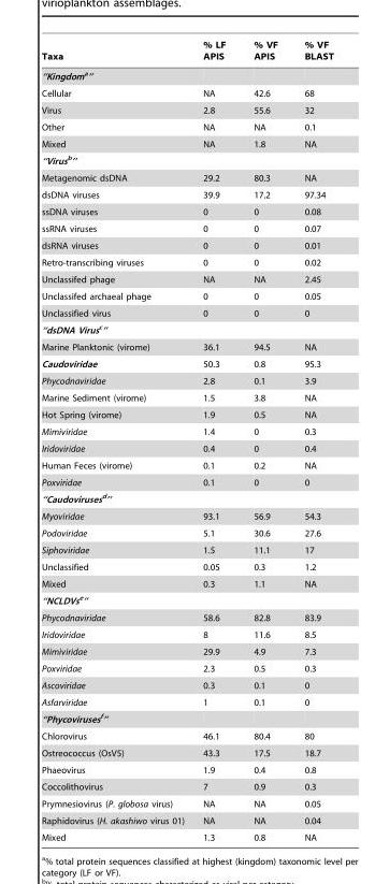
<table><thead><tr><td>Taxa</td><td>% LF APIS</td><td>% VF APIS</td><td>% VF BLAST</td></tr></thead><tbody><tr><td colspan="4">‘‘Kingdoma’’</td></tr><tr><td>Cellular</td><td>NA</td><td>42.6</td><td>68</td></tr><tr><td>Virus</td><td>2.8</td><td>55.6</td><td>32</td></tr><tr><td>Other</td><td>NA</td><td>NA</td><td>0.1</td></tr><tr><td>Mixed</td><td>NA</td><td>1.8</td><td>NA</td></tr><tr><td colspan="4">‘‘Virusb’’</td></tr><tr><td>Metagenomic dsDNA</td><td>29.2</td><td>80.3</td><td>NA</td></tr><tr><td>dsDNA viruses</td><td>39.9</td><td>17.2</td><td>97.34</td></tr><tr><td>ssDNA viruses</td><td>0</td><td>0</td><td>0.08</td></tr><tr><td>ssRNA viruses</td><td>0</td><td>0</td><td>0.07</td></tr><tr><td>dsRNA viruses</td><td>0</td><td>0</td><td>0.01</td></tr><tr><td>Retro-transcribing viruses</td><td>0</td><td>0</td><td>0.02</td></tr><tr><td>Unclassifed phage</td><td>NA</td><td>NA</td><td>2.45</td></tr><tr><td>Unclassifed archaeal phage</td><td>0</td><td>0</td><td>0.05</td></tr><tr><td>Unclassified virus</td><td>0</td><td>0</td><td>0</td></tr><tr><td colspan="4">‘‘dsDNA Virusc’’</td></tr><tr><td>Marine Planktonic (virome)</td><td>36.1</td><td>94.5</td><td>NA</td></tr><tr><td>Caudoviridae</td><td>50.3</td><td>0.8</td><td>95.3</td></tr><tr><td>Phycodnaviridae</td><td>2.8</td><td>0.1</td><td>3.9</td></tr><tr><td>Marine Sediment (virome)</td><td>1.5</td><td>3.8</td><td>NA</td></tr><tr><td>Hot Spring (virome)</td><td>1.9</td><td>0.5</td><td>NA</td></tr><tr><td>Mimiviridae</td><td>1.4</td><td>0</td><td>0.3</td></tr><tr><td>Iridoviridae</td><td>0.4</td><td>0</td><td>0.4</td></tr><tr><td>Human Feces (virome)</td><td>0.1</td><td>0.2</td><td>NA</td></tr><tr><td>Poxviridae</td><td>0.1</td><td>0</td><td>0</td></tr><tr><td colspan="4">‘‘Caudovirusesd’’</td></tr><tr><td>Myoviridae</td><td>93.1</td><td>56.9</td><td>54.3</td></tr><tr><td>Podoviridae</td><td>5.1</td><td>30.6</td><td>27.6</td></tr><tr><td>Siphoviridae</td><td>1.5</td><td>11.1</td><td>17</td></tr><tr><td>Unclassified</td><td>0.05</td><td>0.3</td><td>1.2</td></tr><tr><td>Mixed</td><td>0.3</td><td>1.1</td><td>NA</td></tr><tr><td colspan="4">‘‘NCLDVse’’</td></tr><tr><td>Phycodnaviridae</td><td>58.6</td><td>82.8</td><td>83.9</td></tr><tr><td>Iridoviridae</td><td>8</td><td>11.6</td><td>8.5</td></tr><tr><td>Mimiviridae</td><td>29.9</td><td>4.9</td><td>7.3</td></tr><tr><td>Poxviridae</td><td>2.3</td><td>0.5</td><td>0.3</td></tr><tr><td>Ascoviridae</td><td>0.3</td><td>0.1</td><td>0</td></tr><tr><td>Asfarviridae</td><td>1</td><td>0.1</td><td>0</td></tr><tr><td colspan="4">‘‘Phycovirusesf’’</td></tr><tr><td>Chlorovirus</td><td>46.1</td><td>80.4</td><td>80</td></tr><tr><td>Ostreococcus (OsV5)</td><td>43.3</td><td>17.5</td><td>18.7</td></tr><tr><td>Phaeovirus</td><td>1.9</td><td>0.4</td><td>0.8</td></tr><tr><td>Coccolithovirus</td><td>7</td><td>0.9</td><td>0.3</td></tr><tr><td>Prymnesiovirus (P. globosa virus)</td><td>NA</td><td>NA</td><td>0.05</td></tr><tr><td>Raphidovirus (H. akashiwo virus 01)</td><td>NA</td><td>NA</td><td>0.04</td></tr><tr><td>Mixed</td><td>1.3</td><td>0.8</td><td>NA</td></tr></tbody></table>